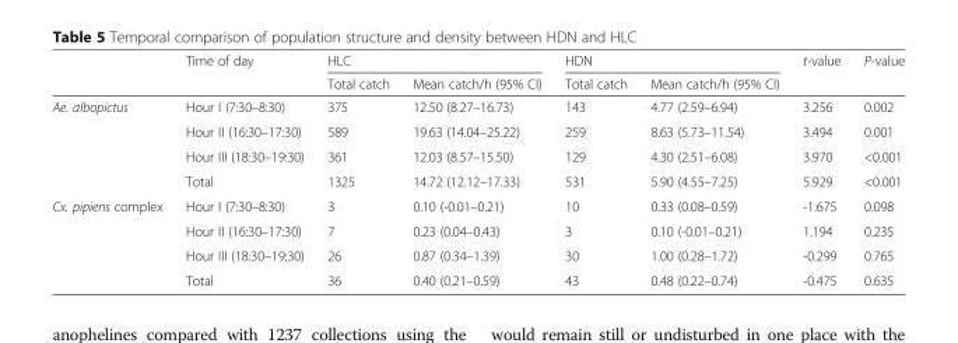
<table><thead><tr><td rowspan="2"></td><td rowspan="2">Time of day</td><td colspan="2">HLC</td><td colspan="2">HDN</td><td rowspan="2">t-value</td><td rowspan="2">P-value</td></tr><tr><td>Total catch</td><td>Mean catch/h (95% CI)</td><td>Total catch</td><td>Mean catch/h (95% CI)</td></tr></thead><tbody><tr><td rowspan="4">Ae. albopictus</td><td>Hour I (7:30–8:30)</td><td>375</td><td>12.50 (8.27–16.73)</td><td>143</td><td>4.77 (2.59–6.94)</td><td>3.256</td><td>0.002</td></tr><tr><td>Hour II (16:30–17:30)</td><td>589</td><td>19.63 (14.04–25.22)</td><td>259</td><td>8.63 (5.73–11.54)</td><td>3.494</td><td>0.001</td></tr><tr><td>Hour III (18:30–19:30)</td><td>361</td><td>12.03 (8.57–15.50)</td><td>129</td><td>4.30 (2.51–6.08)</td><td>3.970</td><td>&lt;0.001</td></tr><tr><td>Total</td><td>1325</td><td>14.72 (12.12–17.33)</td><td>531</td><td>5.90 (4.55–7.25)</td><td>5.929</td><td>&lt;0.001</td></tr><tr><td rowspan="4">Cx. pipiens complex</td><td>Hour I (7:30–8:30)</td><td>3</td><td>0.10 (-0.01–0.21)</td><td>10</td><td>0.33 (0.08–0.59)</td><td>-1.675</td><td>0.098</td></tr><tr><td>Hour II (16:30–17:30)</td><td>7</td><td>0.23 (0.04–0.43)</td><td>3</td><td>0.10 (-0.01–0.21)</td><td>1.194</td><td>0.235</td></tr><tr><td>Hour III (18:30–19:30)</td><td>26</td><td>0.87 (0.34–1.39)</td><td>30</td><td>1.00 (0.28–1.72)</td><td>-0.299</td><td>0.765</td></tr><tr><td>Total</td><td>36</td><td>0.40 (0.21–0.59)</td><td>43</td><td>0.48 (0.22–0.74)</td><td>-0.475</td><td>0.635</td></tr></tbody></table>